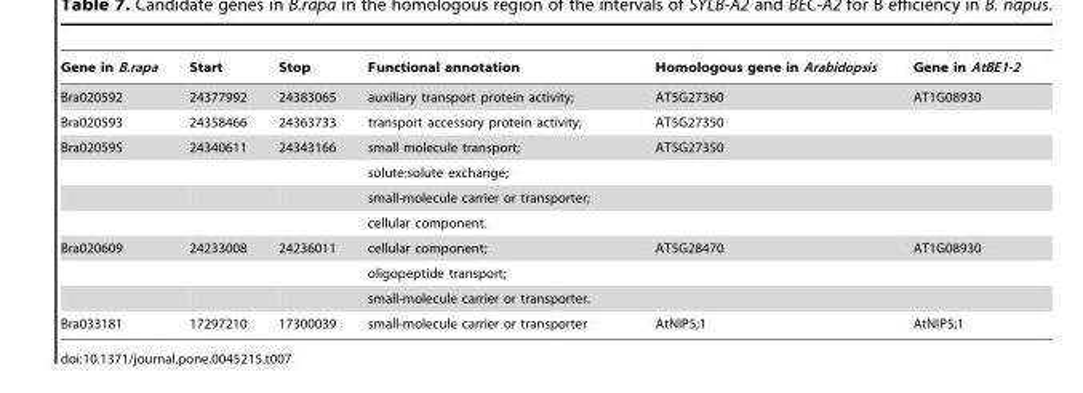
<table><thead><tr><td>Gene in B.rapa</td><td>Start</td><td>Stop</td><td>Functional annotation</td><td>Homologous gene in Arabidopsis</td><td>Gene in AtBE1-2</td></tr></thead><tbody><tr><td>Bra020592</td><td>24377992</td><td>24383065</td><td>auxiliary transport protein activity;</td><td>AT5G27360</td><td>AT1G08930</td></tr><tr><td>Bra020593</td><td>24358466</td><td>24363733</td><td>transport accessory protein activity;</td><td>AT5G27350</td><td></td></tr><tr><td rowspan="4">Bra020595</td><td>24340611</td><td>24343166</td><td>small molecule transport;</td><td>AT5G27350</td><td></td></tr><tr><td></td><td></td><td>solute:solute exchange;</td><td></td><td></td></tr><tr><td></td><td></td><td>small-molecule carrier or transporter;</td><td></td><td></td></tr><tr><td></td><td></td><td>cellular component.</td><td></td><td></td></tr><tr><td rowspan="3">Bra020609</td><td>24233008</td><td>24236011</td><td>cellular component;</td><td>AT5G28470</td><td>AT1G08930</td></tr><tr><td></td><td></td><td>oligopeptide transport;</td><td></td><td></td></tr><tr><td></td><td></td><td>small-molecule carrier or transporter.</td><td></td><td></td></tr><tr><td>Bra033181</td><td>17297210</td><td>17300039</td><td>small-molecule carrier or transporter</td><td>AtNIP5;1</td><td>AtNIP5;1</td></tr></tbody></table>